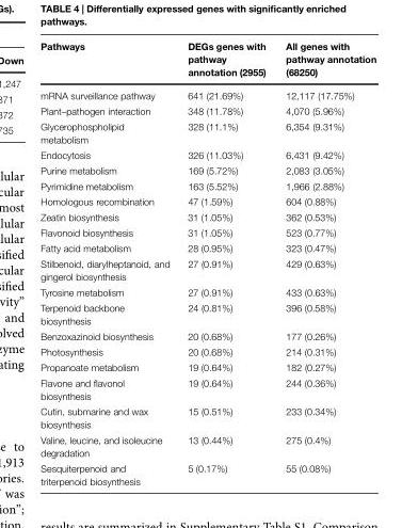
<table><thead><tr><td>Pathways</td><td>DEGs genes with pathway annotation (2955)</td><td>All genes with pathway annotation (68250)</td></tr></thead><tbody><tr><td>mRNA surveillance pathway</td><td>641 (21.69%)</td><td>12,117 (17.75%)</td></tr><tr><td>Plant–pathogen interaction</td><td>348 (11.78%)</td><td>4,070 (5.96%)</td></tr><tr><td>Glycerophospholipid metabolism</td><td>328 (11.1%)</td><td>6,354 (9.31%)</td></tr><tr><td>Endocytosis</td><td>326 (11.03%)</td><td>6,431 (9.42%)</td></tr><tr><td>Purine metabolism</td><td>169 (5.72%)</td><td>2,083 (3.05%)</td></tr><tr><td>Pyrimidine metabolism</td><td>163 (5.52%)</td><td>1,966 (2.88%)</td></tr><tr><td>Homologous recombination</td><td>47 (1.59%)</td><td>604 (0.88%)</td></tr><tr><td>Zeatin biosynthesis</td><td>31 (1.05%)</td><td>362 (0.53%)</td></tr><tr><td>Flavonoid biosynthesis</td><td>31 (1.05%)</td><td>523 (0.77%)</td></tr><tr><td>Fatty acid metabolism</td><td>28 (0.95%)</td><td>323 (0.47%)</td></tr><tr><td>Stilbenoid, diarylheptanoid, and gingerol biosynthesis</td><td>27 (0.91%)</td><td>429 (0.63%)</td></tr><tr><td>Tyrosine metabolism</td><td>27 (0.91%)</td><td>433 (0.63%)</td></tr><tr><td>Terpenoid backbone biosynthesis</td><td>24 (0.81%)</td><td>396 (0.58%)</td></tr><tr><td>Benzoxazinoid biosynthesis</td><td>20 (0.68%)</td><td>177 (0.26%)</td></tr><tr><td>Photosynthesis</td><td>20 (0.68%)</td><td>214 (0.31%)</td></tr><tr><td>Propanoate metabolism</td><td>19 (0.64%)</td><td>182 (0.27%)</td></tr><tr><td>Flavone and flavonol biosynthesis</td><td>19 (0.64%)</td><td>244 (0.36%)</td></tr><tr><td>Cutin, submarine and wax biosynthesis</td><td>15 (0.51%)</td><td>233 (0.34%)</td></tr><tr><td>Valine, leucine, and isoleucine degradation</td><td>13 (0.44%)</td><td>275 (0.4%)</td></tr><tr><td>Sesquiterpenoid and triterpenoid biosynthesis</td><td>5 (0.17%)</td><td>55 (0.08%)</td></tr></tbody></table>